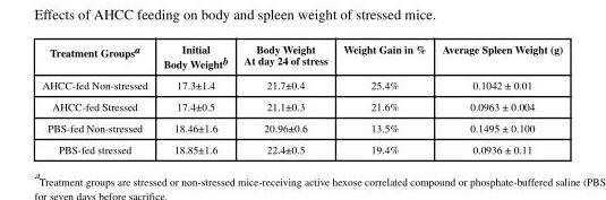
<table><thead><tr><td>Treatment Groups<sup>a</sup></td><td>Initial Body Weight<sup>b</sup></td><td>Body Weight At day 24 of stress</td><td>Weight Gain in %</td><td>Average Spleen Weight (g)</td></tr></thead><tbody><tr><td>AHCC-fed Non-stressed</td><td>17.3±1.4</td><td>21.7±0.4</td><td>25.4%</td><td>0.1042 ± 0.01</td></tr><tr><td>AHCC-fed Stressed</td><td>17.4±0.5</td><td>21.1±0.3</td><td>21.6%</td><td>0.0963 ± 0.004</td></tr><tr><td>PBS-fed Non-stressed</td><td>18.46±1.6</td><td>20.96±0.6</td><td>13.5%</td><td>0.1495 ± 0.100</td></tr><tr><td>PBS-fed stressed</td><td>18.85±1.6</td><td>22.4±0.5</td><td>19.4%</td><td>0.0936 ± 0.11</td></tr></tbody></table>